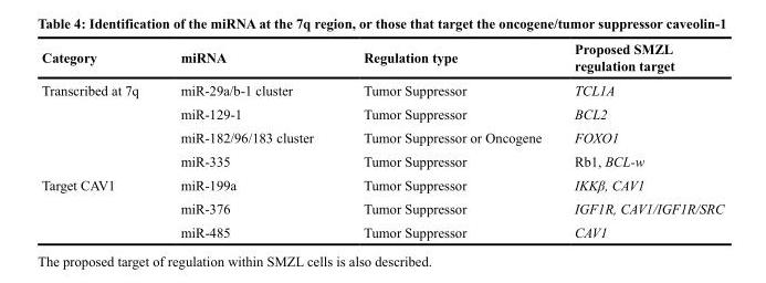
<table><thead><tr><td>Category</td><td>miRNA</td><td>Regulation type</td><td>Proposed SMZL regulation target</td></tr></thead><tbody><tr><td rowspan="4">Transcribed at 7q</td><td>miR-29a/b-1 cluster</td><td>Tumor Suppressor</td><td>TCL1A</td></tr><tr><td>miR-129-1</td><td>Tumor Suppressor</td><td>BCL2</td></tr><tr><td>miR-182/96/183 cluster</td><td>Tumor Suppressor or Oncogene</td><td>FOXO1</td></tr><tr><td>miR-335</td><td>Tumor Suppressor</td><td>Rb1, BCL-w</td></tr><tr><td rowspan="3">Target CAV1</td><td>miR-199a</td><td>Tumor Suppressor</td><td>IKKβ, CAV1</td></tr><tr><td>miR-376</td><td>Tumor Suppressor</td><td>IGF1R, CAV1/IGF1R/SRC</td></tr><tr><td>miR-485</td><td>Tumor Suppressor</td><td>CAV1</td></tr></tbody></table>